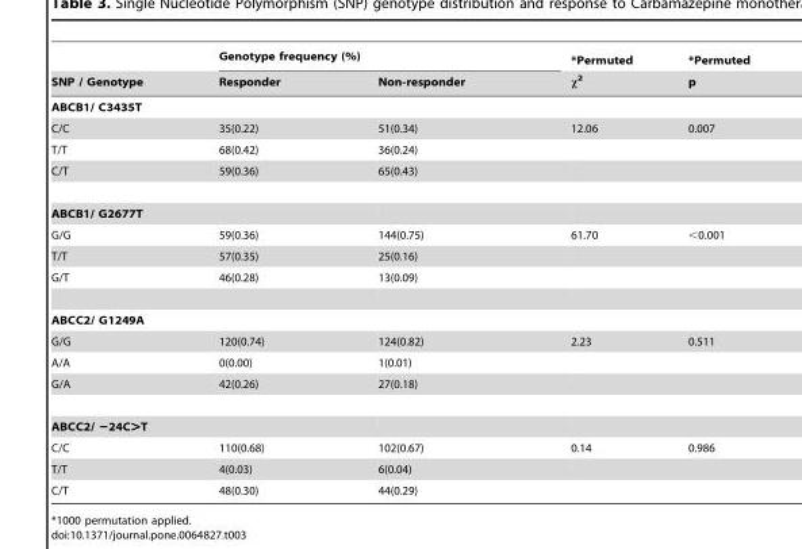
<table><thead><tr><td rowspan="2">SNP / Genotype</td><td colspan="2">Genotype frequency (%)</td><td rowspan="2">*Permuted χ<sup>2</sup></td><td rowspan="2">*Permuted p</td></tr><tr><td>Responder</td><td>Non-responder</td></tr></thead><tbody><tr><td colspan="5">ABCB1/ C3435T</td></tr><tr><td>C/C</td><td>35(0.22)</td><td>51(0.34)</td><td>12.06</td><td>0.007</td></tr><tr><td>T/T</td><td>68(0.42)</td><td>36(0.24)</td><td></td><td></td></tr><tr><td>C/T</td><td>59(0.36)</td><td>65(0.43)</td><td></td><td></td></tr><tr><td colspan="5">ABCB1/ G2677T</td></tr><tr><td>G/G</td><td>59(0.36)</td><td>144(0.75)</td><td>61.70</td><td>&lt;0.001</td></tr><tr><td>T/T</td><td>57(0.35)</td><td>25(0.16)</td><td></td><td></td></tr><tr><td>G/T</td><td>46(0.28)</td><td>13(0.09)</td><td></td><td></td></tr><tr><td colspan="5">ABCC2/ G1249A</td></tr><tr><td>G/G</td><td>120(0.74)</td><td>124(0.82)</td><td>2.23</td><td>0.511</td></tr><tr><td>A/A</td><td>0(0.00)</td><td>1(0.01)</td><td></td><td></td></tr><tr><td>G/A</td><td>42(0.26)</td><td>27(0.18)</td><td></td><td></td></tr><tr><td colspan="5">ABCC2/ −24C&gt;T</td></tr><tr><td>C/C</td><td>110(0.68)</td><td>102(0.67)</td><td>0.14</td><td>0.986</td></tr><tr><td>T/T</td><td>4(0.03)</td><td>6(0.04)</td><td></td><td></td></tr><tr><td>C/T</td><td>48(0.30)</td><td>44(0.29)</td><td></td><td></td></tr></tbody></table>